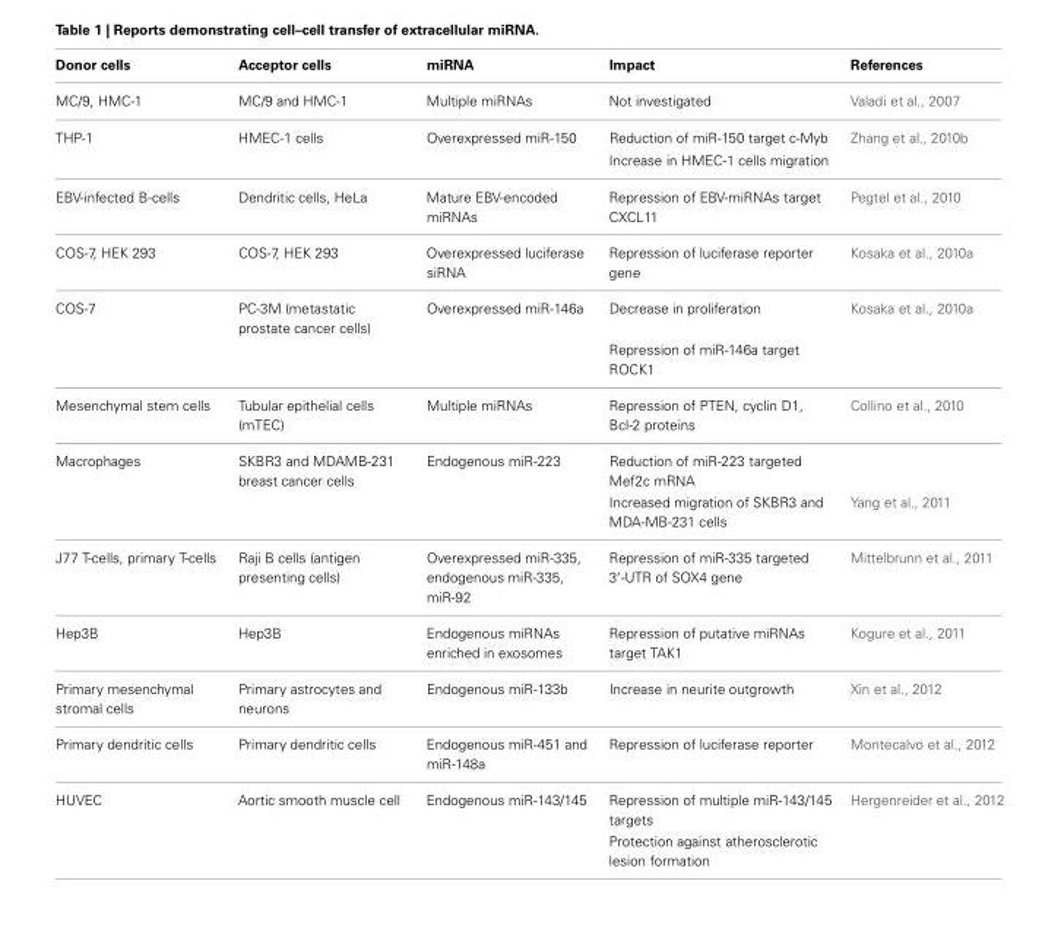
<table><thead><tr><td>Donor cells</td><td>Acceptor cells</td><td>miRNA</td><td>Impact</td><td>References</td></tr></thead><tbody><tr><td>MC/9, HMC-1</td><td>MC/9 and HMC-1</td><td>Multiple miRNAs</td><td>Not investigated</td><td>Valadi et al., 2007</td></tr><tr><td rowspan="2">THP-1</td><td>HMEC-1 cells</td><td>Overexpressed miR-150</td><td>Reduction of miR-150 target c-Myb</td><td>Zhang et al., 2010b</td></tr><tr><td></td><td></td><td>Increase in HMEC-1 cells migration</td><td></td></tr><tr><td>EBV-infected B-cells</td><td>Dendritic cells, HeLa</td><td>Mature EBV-encoded miRNAs</td><td>Repression of EBV-miRNAs target CXCL11</td><td>Pegtel et al., 2010</td></tr><tr><td>COS-7, HEK 293</td><td>COS-7, HEK 293</td><td>Overexpressed luciferase siRNA</td><td>Repression of luciferase reporter gene</td><td>Kosaka et al., 2010a</td></tr><tr><td rowspan="2">COS-7</td><td>PC-3M (metastatic prostate cancer cells)</td><td>Overexpressed miR-146a</td><td>Decrease in proliferation</td><td>Kosaka et al., 2010a</td></tr><tr><td></td><td></td><td>Repression of miR-146a target ROCK1</td><td></td></tr><tr><td>Mesenchymal stem cells</td><td>Tubular epithelial cells (mTEC)</td><td>Multiple miRNAs</td><td>Repression of PTEN, cyclin D1, Bcl-2 proteins</td><td>Collino et al., 2010</td></tr><tr><td rowspan="2">Macrophages</td><td>SKBR3 and MDAMB-231 breast cancer cells</td><td>Endogenous miR-223</td><td>Reduction of miR-223 targeted Mef2c mRNA</td><td></td></tr><tr><td></td><td></td><td>Increased migration of SKBR3 and MDA-MB-231 cells</td><td>Yang et al., 2011</td></tr><tr><td>J77 T-cells, primary T-cells</td><td>Raji B cells (antigen presenting cells)</td><td>Overexpressed miR-335, endogenous miR-335, miR-92</td><td>Repression of miR-335 targeted 3′-UTR of SOX4 gene</td><td>Mittelbrunn et al., 2011</td></tr><tr><td>Hep3B</td><td>Hep3B</td><td>Endogenous miRNAs enriched in exosomes</td><td>Repression of putative miRNAs target TAK1</td><td>Kogure et al., 2011</td></tr><tr><td>Primary mesenchymal stromal cells</td><td>Primary astrocytes and neurons</td><td>Endogenous miR-133b</td><td>Increase in neurite outgrowth</td><td>Xin et al., 2012</td></tr><tr><td>Primary dendritic cells</td><td>Primary dendritic cells</td><td>Endogenous miR-451 and miR-148a</td><td>Repression of luciferase reporter</td><td>Montecalvo et al., 2012</td></tr><tr><td rowspan="2">HUVEC</td><td>Aortic smooth muscle cell</td><td>Endogenous miR-143/145</td><td>Repression of multiple miR-143/145 targets</td><td>Hergenreider et al., 2012</td></tr><tr><td></td><td></td><td>Protection against atherosclerotic lesion formation</td><td></td></tr></tbody></table>